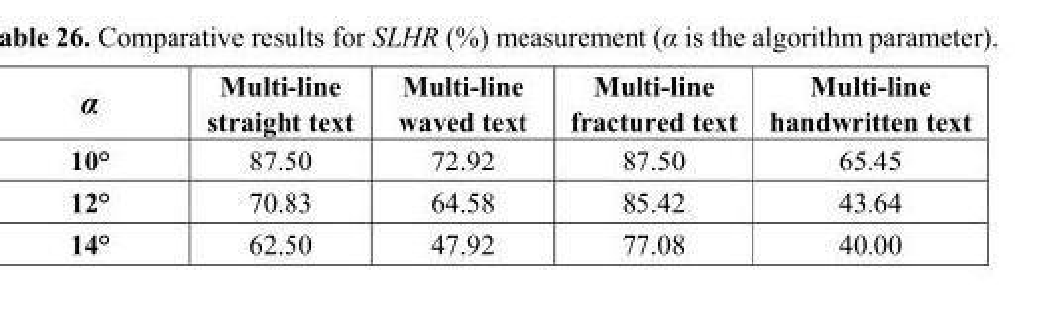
<table><thead><tr><td>α</td><td>Multi-line straight text</td><td>Multi-line waved text</td><td>Multi-line fractured text</td><td>Multi-line handwritten text</td></tr></thead><tbody><tr><td>10°</td><td>87.50</td><td>72.92</td><td>87.50</td><td>65.45</td></tr><tr><td>12°</td><td>70.83</td><td>64.58</td><td>85.42</td><td>43.64</td></tr><tr><td>14°</td><td>62.50</td><td>47.92</td><td>77.08</td><td>40.00</td></tr></tbody></table>